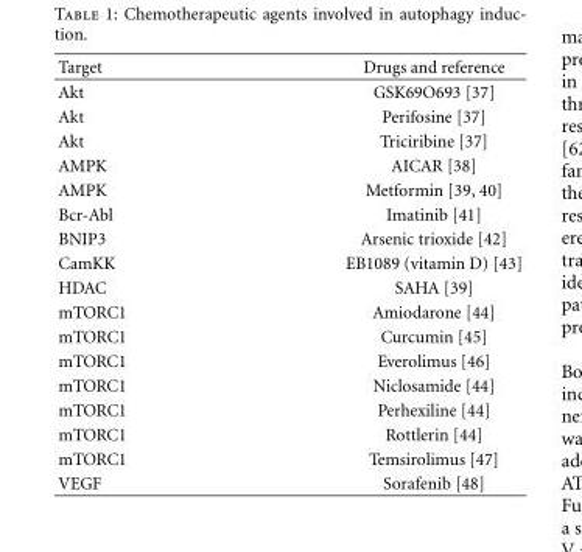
<table><thead><tr><td>Target</td><td>Drugs and reference</td></tr></thead><tbody><tr><td>Akt</td><td>GSK69O693 [37]</td></tr><tr><td>Akt</td><td>Perifosine [37]</td></tr><tr><td>Akt</td><td>Triciribine [37]</td></tr><tr><td>AMPK</td><td>AICAR [38]</td></tr><tr><td>AMPK</td><td>Metformin [39, 40]</td></tr><tr><td>Bcr-Abl</td><td>Imatinib [41]</td></tr><tr><td>BNIP3</td><td>Arsenic trioxide [42]</td></tr><tr><td>CamKK</td><td>EB1089 (vitamin D) [43]</td></tr><tr><td>HDAC</td><td>SAHA [39]</td></tr><tr><td>mTORC1</td><td>Amiodarone [44]</td></tr><tr><td>mTORC1</td><td>Curcumin [45]</td></tr><tr><td>mTORC1</td><td>Everolimus [46]</td></tr><tr><td>mTORC1</td><td>Niclosamide [44]</td></tr><tr><td>mTORC1</td><td>Perhexiline [44]</td></tr><tr><td>mTORC1</td><td>Rottlerin [44]</td></tr><tr><td>mTORC1</td><td>Temsirolimus [47]</td></tr><tr><td>VEGF</td><td>Sorafenib [48]</td></tr></tbody></table>